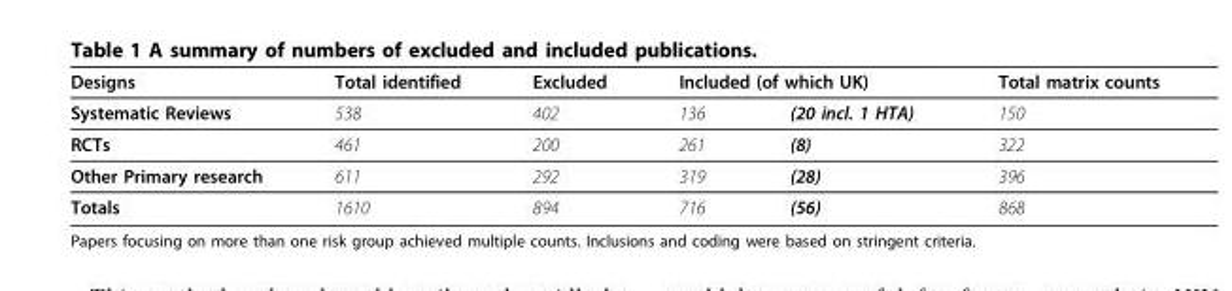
<table><thead><tr><td rowspan="2">Designs Systematic Reviews</td><td rowspan="2">Total identified 538</td><td rowspan="2">Excluded 402</td><td colspan="2">Included (of which UK)</td><td rowspan="2">Total matrix counts 150</td></tr><tr><td>136</td><td>(20 incl. 1 HTA)</td></tr></thead><tbody><tr><td>RCTs</td><td>461</td><td>200</td><td>261</td><td>(8)</td><td>322</td></tr><tr><td>Other Primary research</td><td>611</td><td>292</td><td>319</td><td>(28)</td><td>396</td></tr><tr><td>Totals</td><td>1610</td><td>894</td><td>716</td><td>(56)</td><td>868</td></tr></tbody></table>